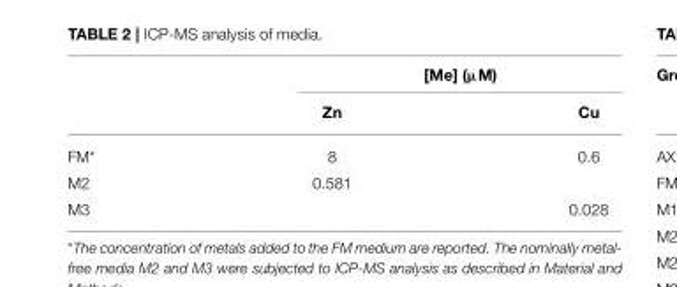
<table><thead><tr><td rowspan="2"></td><td colspan="2">[Me] (µM)</td></tr><tr><td>Zn</td><td>Cu</td></tr></thead><tbody><tr><td>FM*</td><td>8</td><td>0.6</td></tr><tr><td>M2</td><td>0.581</td><td></td></tr><tr><td>M3</td><td></td><td>0.028</td></tr></tbody></table>